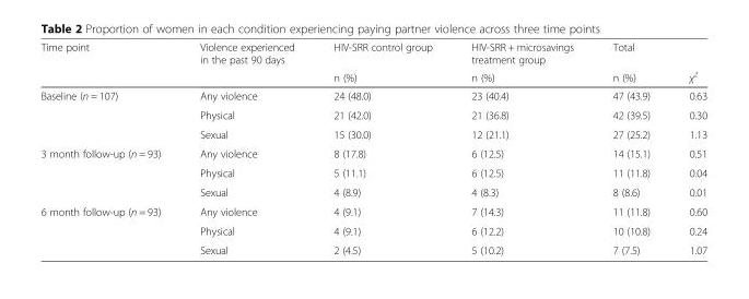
<table><thead><tr><td rowspan="2">Time point</td><td rowspan="2">Violence experienced in the past 90 days</td><td rowspan="2">HIV-SRR control group n (%)</td><td rowspan="2">HIV-SRR + microsavings treatment group n (%)</td><td rowspan="2">Total n (%)</td><td rowspan="2">χ<sup>2</sup></td></tr><tr></tr></thead><tbody><tr><td rowspan="3">Baseline (n = 107)</td><td>Any violence</td><td>24 (48.0)</td><td>23 (40.4)</td><td>47 (43.9)</td><td>0.63</td></tr><tr><td>Physical</td><td>21 (42.0)</td><td>21 (36.8)</td><td>42 (39.5)</td><td>0.30</td></tr><tr><td>Sexual</td><td>15 (30.0)</td><td>12 (21.1)</td><td>27 (25.2)</td><td>1.13</td></tr><tr><td rowspan="3">3 month follow-up (n = 93)</td><td>Any violence</td><td>8 (17.8)</td><td>6 (12.5)</td><td>14 (15.1)</td><td>0.51</td></tr><tr><td>Physical</td><td>5 (11.1)</td><td>6 (12.5)</td><td>11 (11.8)</td><td>0.04</td></tr><tr><td>Sexual</td><td>4 (8.9)</td><td>4 (8.3)</td><td>8 (8.6)</td><td>0.01</td></tr><tr><td rowspan="3">6 month follow-up (n = 93)</td><td>Any violence</td><td>4 (9.1)</td><td>7 (14.3)</td><td>11 (11.8)</td><td>0.60</td></tr><tr><td>Physical</td><td>4 (9.1)</td><td>6 (12.2)</td><td>10 (10.8)</td><td>0.24</td></tr><tr><td>Sexual</td><td>2 (4.5)</td><td>5 (10.2)</td><td>7 (7.5)</td><td>1.07</td></tr></tbody></table>